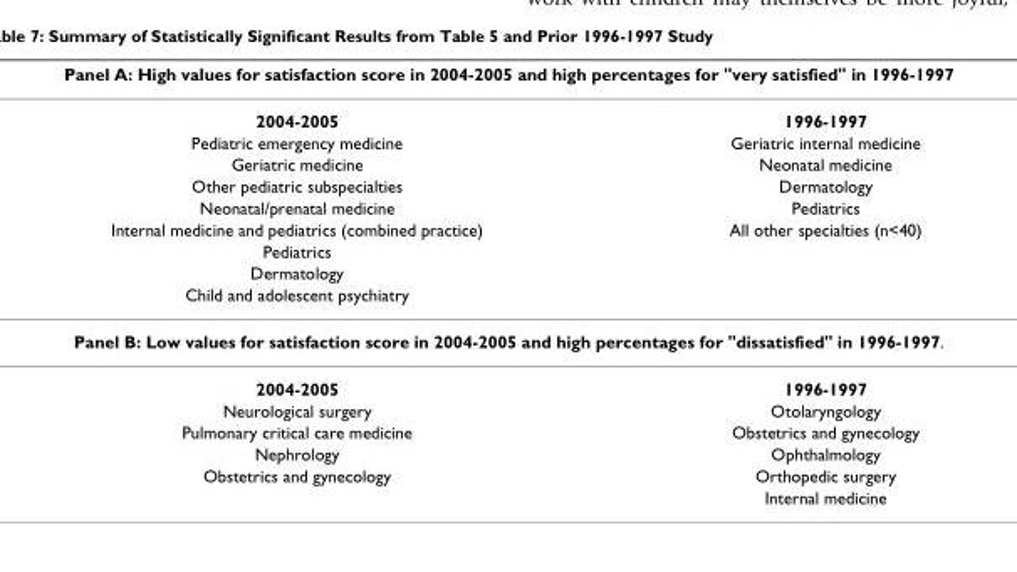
<table><thead><tr><td colspan="2">Panel A: High values for satisfaction score in 2004-2005 and high percentages for &quot;very satisfied&quot; in 1996-1997</td></tr><tr><td>2004-2005</td><td>1996-1997</td></tr></thead><tbody><tr><td>Pediatric emergency medicine</td><td>Geriatric internal medicine</td></tr><tr><td>Geriatric medicine</td><td>Neonatal medicine</td></tr><tr><td>Other pediatric subspecialties</td><td>Dermatology</td></tr><tr><td>Neonatal/prenatal medicine</td><td>Pediatrics</td></tr><tr><td>Internal medicine and pediatrics (combined practice)</td><td>All other specialties (n&lt;40)</td></tr><tr><td colspan="2">Pediatrics</td></tr><tr><td colspan="2">Dermatology</td></tr><tr><td colspan="2">Child and adolescent psychiatry</td></tr><tr><td colspan="2">Panel B: Low values for satisfaction score in 2004-2005 and high percentages for &quot;dissatisfied&quot; in 1996-1997.</td></tr><tr><td>2004-2005</td><td>1996-1997</td></tr><tr><td>Neurological surgery</td><td>Otolaryngology</td></tr><tr><td>Pulmonary critical care medicine</td><td>Obstetrics and gynecology</td></tr><tr><td>Nephrology</td><td>Ophthalmology</td></tr><tr><td rowspan="2">Obstetrics and gynecology</td><td>Orthopedic surgery</td></tr><tr><td>Internal medicine</td></tr></tbody></table>